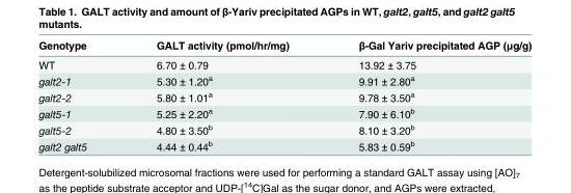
<table><thead><tr><td>Genotype</td><td>GALT activity (pmol/hr/mg)</td><td>β-Gal Yariv precipitated AGP (μg/g)</td></tr></thead><tbody><tr><td>WT</td><td>6.70 ± 0.79</td><td>13.92 ± 3.75</td></tr><tr><td>galt2-1</td><td>5.30 ± 1.20<sup>a</sup></td><td>9.91 ± 2.80<sup>a</sup></td></tr><tr><td>galt2-2</td><td>5.80 ± 1.01<sup>a</sup></td><td>9.78 ± 3.50<sup>a</sup></td></tr><tr><td>galt5-1</td><td>5.25 ± 2.20<sup>a</sup></td><td>7.90 ± 6.10<sup>b</sup></td></tr><tr><td>galt5-2</td><td>4.80 ± 3.50<sup>b</sup></td><td>8.10 ± 3.20<sup>b</sup></td></tr><tr><td>galt2 galt5</td><td>4.44 ± 0.44<sup>b</sup></td><td>5.83 ± 0.59<sup>b</sup></td></tr></tbody></table>